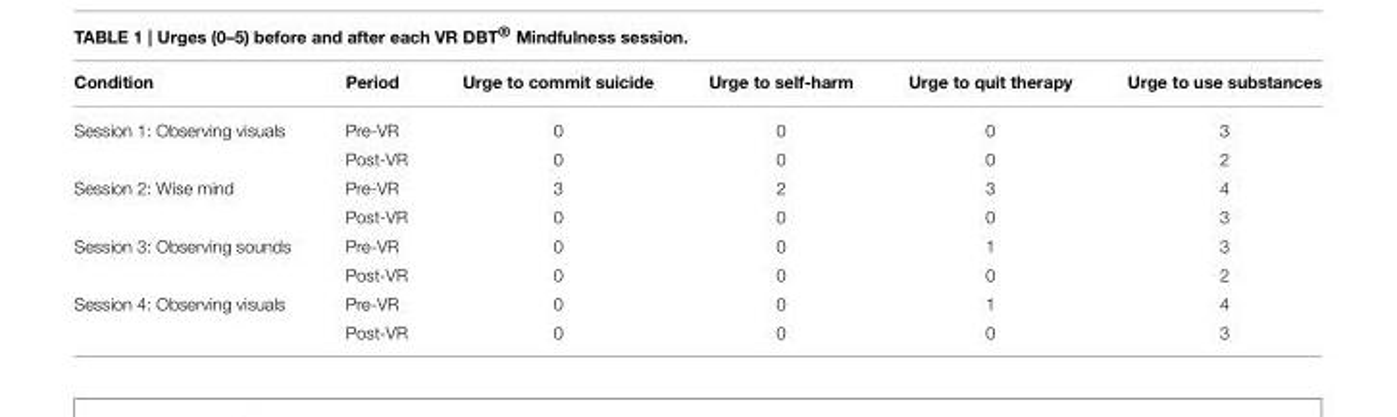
<table><thead><tr><td>Condition</td><td>Period</td><td>Urge to commit suicide</td><td>Urge to self-harm</td><td>Urge to quit therapy</td><td>Urge to use substances</td></tr></thead><tbody><tr><td rowspan="2">Session 1: Observing visuals</td><td>Pre-VR</td><td>0</td><td>0</td><td>0</td><td>3</td></tr><tr><td>Post-VR</td><td>0</td><td>0</td><td>0</td><td>2</td></tr><tr><td rowspan="2">Session 2: Wise mind</td><td>Pre-VR</td><td>3</td><td>2</td><td>3</td><td>4</td></tr><tr><td>Post-VR</td><td>0</td><td>0</td><td>0</td><td>3</td></tr><tr><td rowspan="2">Session 3: Observing sounds</td><td>Pre-VR</td><td>0</td><td>0</td><td>1</td><td>3</td></tr><tr><td>Post-VR</td><td>0</td><td>0</td><td>0</td><td>2</td></tr><tr><td rowspan="2">Session 4: Observing visuals</td><td>Pre-VR</td><td>0</td><td>0</td><td>1</td><td>4</td></tr><tr><td>Post-VR</td><td>0</td><td>0</td><td>0</td><td>3</td></tr></tbody></table>